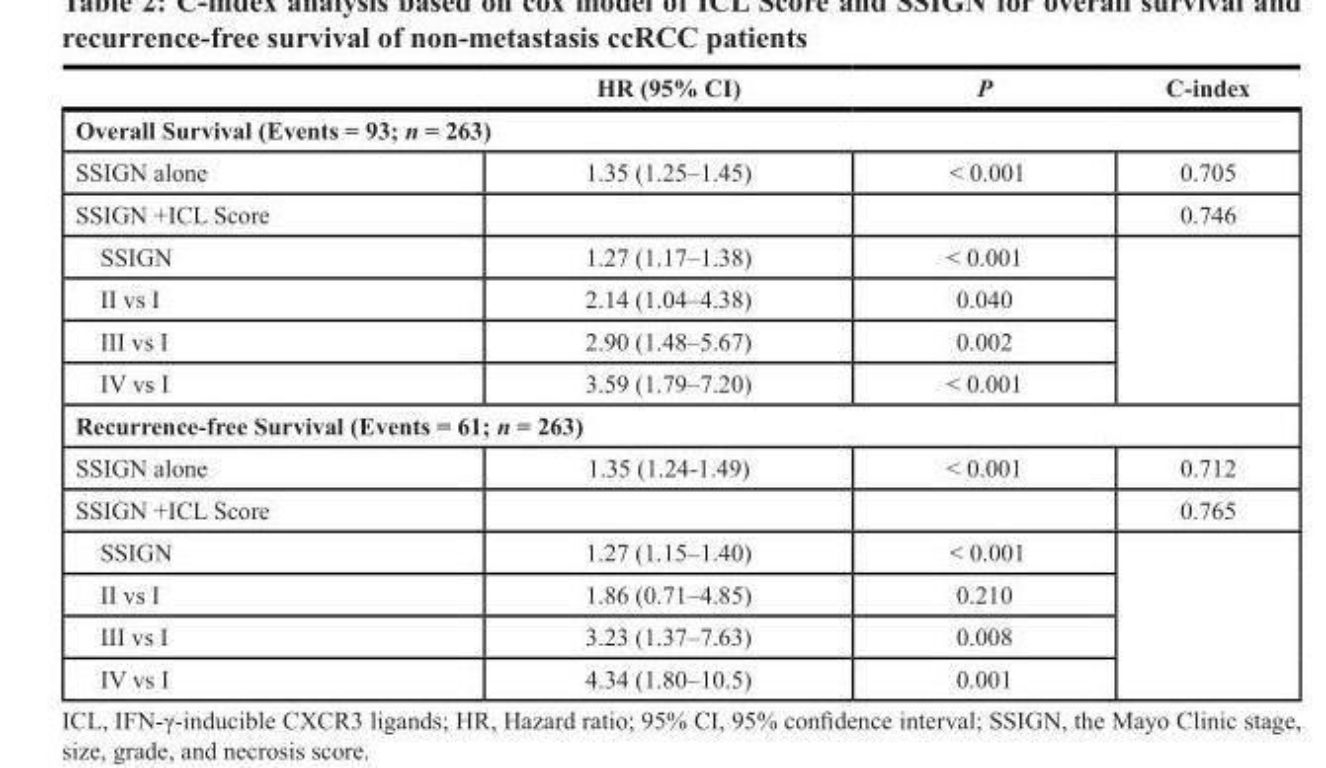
<table><thead><tr><td></td><td>HR (95% CI)</td><td>P</td><td>C-index</td></tr></thead><tbody><tr><td colspan="4">Overall Survival (Events = 93; n = 263)</td></tr><tr><td>SSIGN alone</td><td>1.35 (1.25–1.45)</td><td>&lt; 0.001</td><td>0.705</td></tr><tr><td>SSIGN +ICL Score</td><td></td><td></td><td>0.746</td></tr><tr><td>SSIGN</td><td>1.27 (1.17–1.38)</td><td>&lt; 0.001</td><td rowspan="4"></td></tr><tr><td>II vs I</td><td>2.14 (1.04–4.38)</td><td>0.040</td></tr><tr><td>III vs I</td><td>2.90 (1.48–5.67)</td><td>0.002</td></tr><tr><td>IV vs I</td><td>3.59 (1.79–7.20)</td><td>&lt; 0.001</td></tr><tr><td colspan="4">Recurrence-free Survival (Events = 61; n = 263)</td></tr><tr><td>SSIGN alone</td><td>1.35 (1.24-1.49)</td><td>&lt; 0.001</td><td>0.712</td></tr><tr><td>SSIGN +ICL Score</td><td></td><td></td><td>0.765</td></tr><tr><td>SSIGN</td><td>1.27 (1.15–1.40)</td><td>&lt; 0.001</td><td rowspan="4"></td></tr><tr><td>II vs I</td><td>1.86 (0.71–4.85)</td><td>0.210</td></tr><tr><td>III vs I</td><td>3.23 (1.37–7.63)</td><td>0.008</td></tr><tr><td>IV vs I</td><td>4.34 (1.80–10.5)</td><td>0.001</td></tr></tbody></table>